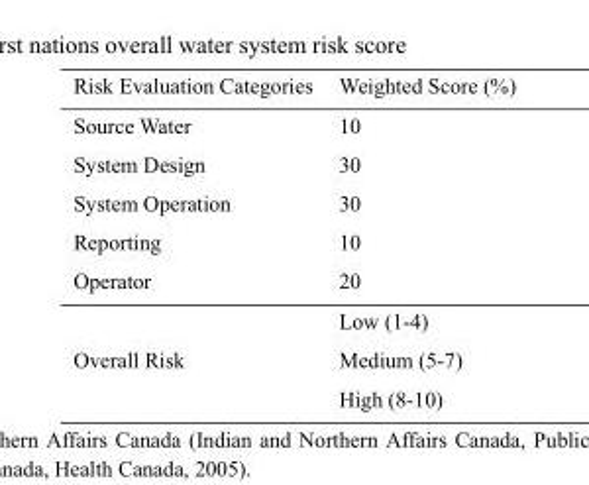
<table><thead><tr><td>Risk Evaluation Categories</td><td>Weighted Score (%)</td></tr></thead><tbody><tr><td>Source Water</td><td>10</td></tr><tr><td>System Design</td><td>30</td></tr><tr><td>System Operation</td><td>30</td></tr><tr><td>Reporting</td><td>10</td></tr><tr><td>Operator</td><td>20</td></tr><tr><td rowspan="3">Overall Risk</td><td>Low (1-4)</td></tr><tr><td>Medium (5-7)</td></tr><tr><td>High (8-10)</td></tr></tbody></table>